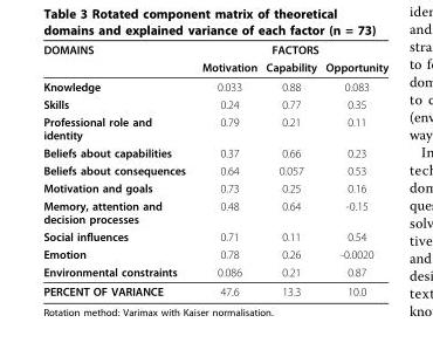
<table><thead><tr><td rowspan="2">DOMAINS</td><td colspan="3">FACTORS</td></tr><tr><td>Motivation</td><td>Capability</td><td>Opportunity</td></tr></thead><tbody><tr><td>Knowledge</td><td>0.033</td><td>0.88</td><td>0.083</td></tr><tr><td>Skills</td><td>0.24</td><td>0.77</td><td>0.35</td></tr><tr><td>Professional role and identity</td><td>0.79</td><td>0.21</td><td>0.11</td></tr><tr><td>Beliefs about capabilities</td><td>0.37</td><td>0.66</td><td>0.23</td></tr><tr><td>Beliefs about consequences</td><td>0.64</td><td>0.057</td><td>0.53</td></tr><tr><td>Motivation and goals</td><td>0.73</td><td>0.25</td><td>0.16</td></tr><tr><td>Memory, attention and decision processes</td><td>0.48</td><td>0.64</td><td>-0.15</td></tr><tr><td>Social influences</td><td>0.71</td><td>0.11</td><td>0.54</td></tr><tr><td>Emotion</td><td>0.78</td><td>0.26</td><td>-0.0020</td></tr><tr><td>Environmental constraints</td><td>0.086</td><td>0.21</td><td>0.87</td></tr><tr><td>PERCENT OF VARIANCE</td><td>47.6</td><td>13.3</td><td>10.0</td></tr></tbody></table>